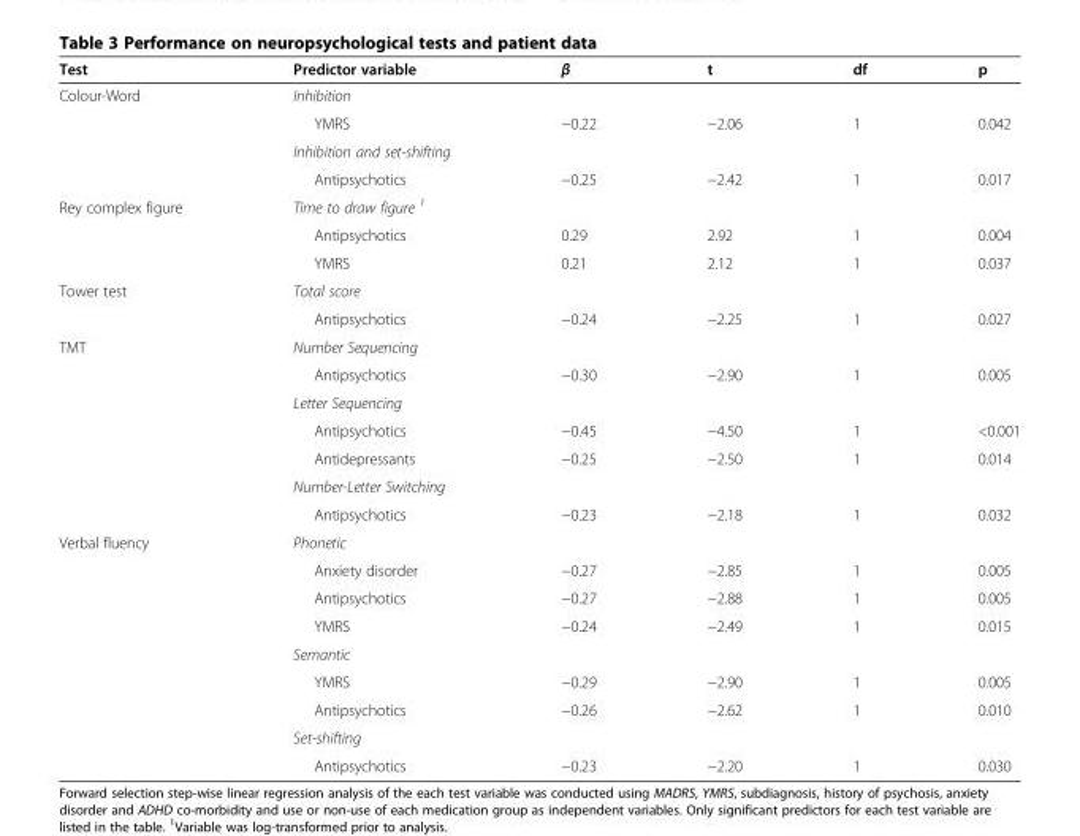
<table><thead><tr><td>Test</td><td>Predictor variable</td><td>β</td><td>t</td><td>df</td><td>p</td></tr></thead><tbody><tr><td rowspan="4">Colour-Word</td><td>Inhibition</td><td></td><td></td><td></td><td></td></tr><tr><td>YMRS</td><td>−0.22</td><td>−2.06</td><td>1</td><td>0.042</td></tr><tr><td>Inhibition and set-shifting</td><td></td><td></td><td></td><td></td></tr><tr><td>Antipsychotics</td><td>−0.25</td><td>−2.42</td><td>1</td><td>0.017</td></tr><tr><td rowspan="3">Rey complex figure</td><td>Time to draw figure <sup>1</sup></td><td></td><td></td><td></td><td></td></tr><tr><td>Antipsychotics</td><td>0.29</td><td>2.92</td><td>1</td><td>0.004</td></tr><tr><td>YMRS</td><td>0.21</td><td>2.12</td><td>1</td><td>0.037</td></tr><tr><td rowspan="2">Tower test</td><td>Total score</td><td></td><td></td><td></td><td></td></tr><tr><td>Antipsychotics</td><td>−0.24</td><td>−2.25</td><td>1</td><td>0.027</td></tr><tr><td rowspan="7">TMT</td><td>Number Sequencing</td><td></td><td></td><td></td><td></td></tr><tr><td>Antipsychotics</td><td>−0.30</td><td>−2.90</td><td>1</td><td>0.005</td></tr><tr><td>Letter Sequencing</td><td></td><td></td><td></td><td></td></tr><tr><td>Antipsychotics</td><td>−0.45</td><td>−4.50</td><td>1</td><td>&lt;0.001</td></tr><tr><td>Antidepressants</td><td>−0.25</td><td>−2.50</td><td>1</td><td>0.014</td></tr><tr><td>Number-Letter Switching</td><td></td><td></td><td></td><td></td></tr><tr><td>Antipsychotics</td><td>−0.23</td><td>−2.18</td><td>1</td><td>0.032</td></tr><tr><td rowspan="9">Verbal fluency</td><td>Phonetic</td><td></td><td></td><td></td><td></td></tr><tr><td>Anxiety disorder</td><td>−0.27</td><td>−2.85</td><td>1</td><td>0.005</td></tr><tr><td>Antipsychotics</td><td>−0.27</td><td>−2.88</td><td>1</td><td>0.005</td></tr><tr><td>YMRS</td><td>−0.24</td><td>−2.49</td><td>1</td><td>0.015</td></tr><tr><td>Semantic</td><td></td><td></td><td></td><td></td></tr><tr><td>YMRS</td><td>−0.29</td><td>−2.90</td><td>1</td><td>0.005</td></tr><tr><td>Antipsychotics</td><td>−0.26</td><td>−2.62</td><td>1</td><td>0.010</td></tr><tr><td>Set-shifting</td><td></td><td></td><td></td><td></td></tr><tr><td>Antipsychotics</td><td>−0.23</td><td>−2.20</td><td>1</td><td>0.030</td></tr></tbody></table>